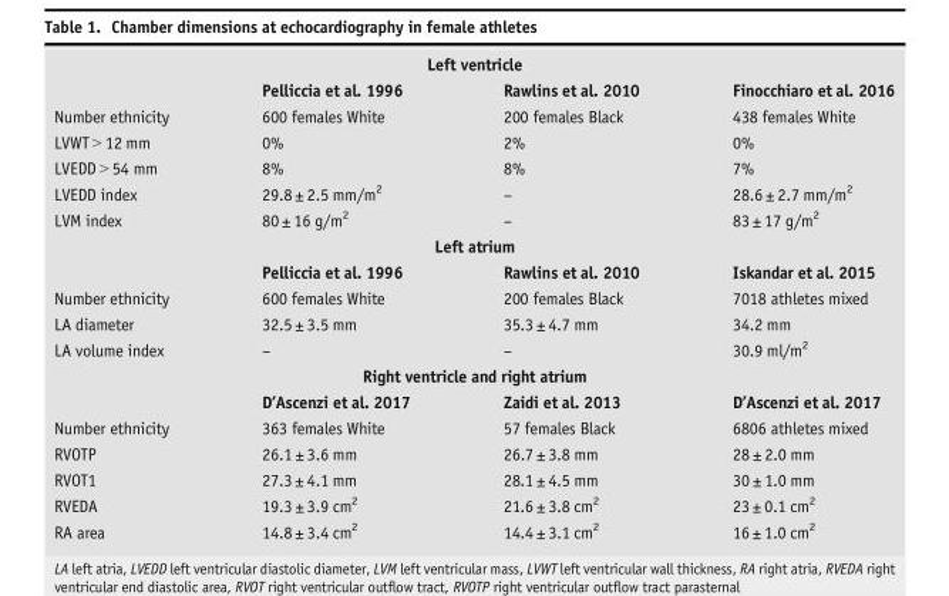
<table><tbody><tr><td colspan="4">Left ventricle</td></tr><tr><td></td><td>Pelliccia et al. 1996</td><td>Rawlins et al. 2010</td><td>Finocchiaro et al. 2016</td></tr><tr><td>Number ethnicity</td><td>600 females White</td><td>200 females Black</td><td>438 females White</td></tr><tr><td>LVWT &gt; 12 mm</td><td>0%</td><td>2%</td><td>0%</td></tr><tr><td>LVEDD &gt; 54 mm</td><td>8%</td><td>8%</td><td>7%</td></tr><tr><td>LVEDD index</td><td>29.8 ± 2.5 mm/m<sup>2</sup></td><td>–</td><td>28.6 ± 2.7 mm/m<sup>2</sup></td></tr><tr><td>LVM index</td><td>80 ± 16 g/m<sup>2</sup></td><td>–</td><td>83 ± 17 g/m<sup>2</sup></td></tr><tr><td colspan="4">Left atrium</td></tr><tr><td></td><td>Pelliccia et al. 1996</td><td>Rawlins et al. 2010</td><td>Iskandar et al. 2015</td></tr><tr><td>Number ethnicity</td><td>600 females White</td><td>200 females Black</td><td>7018 athletes mixed</td></tr><tr><td>LA diameter</td><td>32.5 ± 3.5 mm</td><td>35.3 ± 4.7 mm</td><td>34.2 mm</td></tr><tr><td>LA volume index</td><td>–</td><td>–</td><td>30.9 ml/m<sup>2</sup></td></tr><tr><td colspan="4">Right ventricle and right atrium</td></tr><tr><td></td><td>D’Ascenzi et al. 2017</td><td>Zaidi et al. 2013</td><td>D’Ascenzi et al. 2017</td></tr><tr><td>Number ethnicity</td><td>363 females White</td><td>57 females Black</td><td>6806 athletes mixed</td></tr><tr><td>RVOTP</td><td>26.1 ± 3.6 mm</td><td>26.7 ± 3.8 mm</td><td>28 ± 2.0 mm</td></tr><tr><td>RVOT1</td><td>27.3 ± 4.1 mm</td><td>28.1 ± 4.5 mm</td><td>30 ± 1.0 mm</td></tr><tr><td>RVEDA</td><td>19.3 ± 3.9 cm<sup>2</sup></td><td>21.6 ± 3.8 cm<sup>2</sup></td><td>23 ± 0.1 cm<sup>2</sup></td></tr><tr><td>RA area</td><td>14.8 ± 3.4 cm<sup>2</sup></td><td>14.4 ± 3.1 cm<sup>2</sup></td><td>16 ± 1.0 cm<sup>2</sup></td></tr></tbody></table>